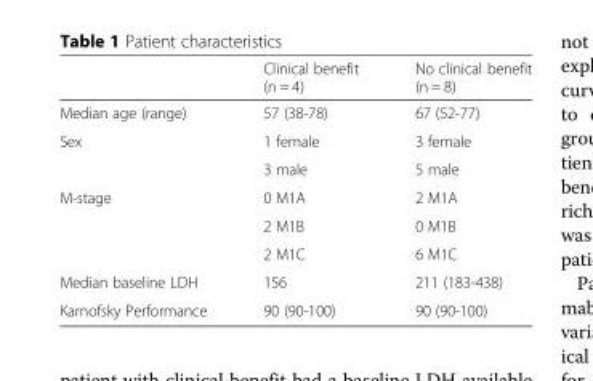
<table><thead><tr><td></td><td>Clinical benefit (n = 4)</td><td>No clinical benefit (n = 8)</td></tr></thead><tbody><tr><td>Median age (range)</td><td>57 (38-78)</td><td>67 (52-77)</td></tr><tr><td rowspan="2">Sex</td><td>1 female</td><td>3 female</td></tr><tr><td>3 male</td><td>5 male</td></tr><tr><td rowspan="3">M-stage</td><td>0 M1A</td><td>2 M1A</td></tr><tr><td>2 M1B</td><td>0 M1B</td></tr><tr><td>2 M1C</td><td>6 M1C</td></tr><tr><td>Median baseline LDH</td><td>156</td><td>211 (183-438)</td></tr><tr><td>Karnofsky Performance</td><td>90 (90-100)</td><td>90 (90-100)</td></tr></tbody></table>